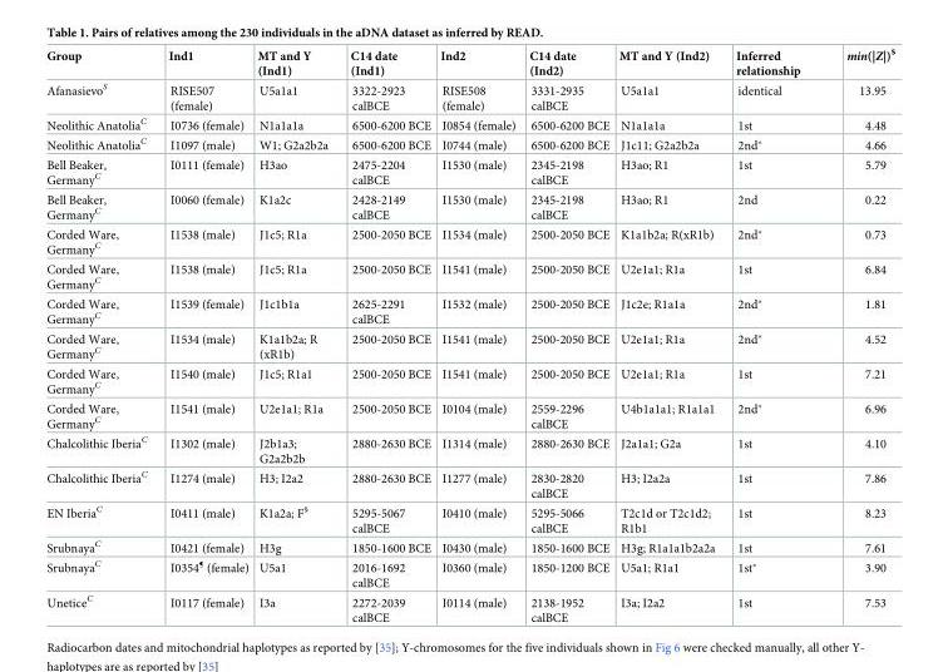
<table><thead><tr><td>Group</td><td>Ind1</td><td>MT and Y (Ind1)</td><td>C14 date (Ind1)</td><td>Ind2</td><td>C14 date (Ind2)</td><td>MT and Y (Ind2)</td><td>Inferred relationship</td><td>min(|Z|)<sup>$</sup></td></tr></thead><tbody><tr><td>Afanasievo<sup>S</sup></td><td>RISE507 (female)</td><td>U5a1a1</td><td>3322-2923 calBCE</td><td>RISE508 (female)</td><td>3331-2935 calBCE</td><td>U5a1a1</td><td>identical</td><td>13.95</td></tr><tr><td>Neolithic Anatolia<sup>C</sup></td><td>I0736 (female)</td><td>N1a1a1a</td><td>6500-6200 BCE</td><td>I0854 (female)</td><td>6500-6200 BCE</td><td>N1a1a1a</td><td>1st</td><td>4.48</td></tr><tr><td>Neolithic Anatolia<sup>C</sup></td><td>I1097 (male)</td><td>W1; G2a2b2a</td><td>6500-6200 BCE</td><td>I0744 (male)</td><td>6500-6200 BCE</td><td>J1c11; G2a2b2a</td><td>2nd*</td><td>4.66</td></tr><tr><td>Bell Beaker, Germany<sup>C</sup></td><td>I0111 (female)</td><td>H3ao</td><td>2475-2204 calBCE</td><td>I1530 (male)</td><td>2345-2198 calBCE</td><td>H3ao; R1</td><td>1st</td><td>5.79</td></tr><tr><td>Bell Beaker, Germany<sup>C</sup></td><td>I0060 (female)</td><td>K1a2c</td><td>2428-2149 calBCE</td><td>I1530 (male)</td><td>2345-2198 calBCE</td><td>H3ao; R1</td><td>2nd</td><td>0.22</td></tr><tr><td>Corded Ware, Germany<sup>C</sup></td><td>I1538 (male)</td><td>J1c5; R1a</td><td>2500-2050 BCE</td><td>I1534 (male)</td><td>2500-2050 BCE</td><td>K1a1b2a; R(xR1b)</td><td>2nd*</td><td>0.73</td></tr><tr><td>Corded Ware, Germany<sup>C</sup></td><td>I1538 (male)</td><td>J1c5; R1a</td><td>2500-2050 BCE</td><td>I1541 (male)</td><td>2500-2050 BCE</td><td>U2e1a1; R1a</td><td>1st</td><td>6.84</td></tr><tr><td>Corded Ware, Germany<sup>C</sup></td><td>I1539 (female)</td><td>J1c1b1a</td><td>2625-2291 calBCE</td><td>I1532 (male)</td><td>2500-2050 BCE</td><td>J1c2e; R1a1a</td><td>2nd*</td><td>1.81</td></tr><tr><td>Corded Ware, Germany<sup>C</sup></td><td>I1534 (male)</td><td>K1a1b2a; R (xR1b)</td><td>2500-2050 BCE</td><td>I1541 (male)</td><td>2500-2050 BCE</td><td>U2e1a1; R1a</td><td>2nd*</td><td>4.52</td></tr><tr><td>Corded Ware, Germany<sup>C</sup></td><td>I1540 (male)</td><td>J1c5; R1a1</td><td>2500-2050 BCE</td><td>I1541 (male)</td><td>2500-2050 BCE</td><td>U2e1a1; R1a</td><td>1st</td><td>7.21</td></tr><tr><td>Corded Ware, Germany<sup>C</sup></td><td>I1541 (male)</td><td>U2e1a1; R1a</td><td>2500-2050 BCE</td><td>I0104 (male)</td><td>2559-2296 calBCE</td><td>U4b1a1a1; R1a1a1</td><td>2nd*</td><td>6.96</td></tr><tr><td>Chalcolithic Iberia<sup>C</sup></td><td>I1302 (male)</td><td>J2b1a3; G2a2b2b</td><td>2880-2630 BCE</td><td>I1314 (male)</td><td>2880-2630 BCE</td><td>J2a1a1; G2a</td><td>1st</td><td>4.10</td></tr><tr><td>Chalcolithic Iberia<sup>C</sup></td><td>I1274 (male)</td><td>H3; I2a2</td><td>2880-2630 BCE</td><td>I1277 (male)</td><td>2830-2820 calBCE</td><td>H3; I2a2a</td><td>1st</td><td>7.86</td></tr><tr><td>EN Iberia<sup>C</sup></td><td>I0411 (male)</td><td>K1a2a; F<sup>§</sup></td><td>5295-5067 calBCE</td><td>I0410 (male)</td><td>5295-5066 calBCE</td><td>T2c1d or T2c1d2; R1b1</td><td>1st</td><td>8.23</td></tr><tr><td>Srubnaya<sup>C</sup></td><td>I0421 (female)</td><td>H3g</td><td>1850-1600 BCE</td><td>I0430 (male)</td><td>1850-1600 BCE</td><td>H3g; R1a1a1b2a2a</td><td>1st</td><td>7.61</td></tr><tr><td>Srubnaya<sup>C</sup></td><td>I0354<sup>¶</sup> (female)</td><td>U5a1</td><td>2016-1692 calBCE</td><td>I0360 (male)</td><td>1850-1200 BCE</td><td>U5a1; R1a1</td><td>1st*</td><td>3.90</td></tr><tr><td>Unetice<sup>C</sup></td><td>I0117 (female)</td><td>I3a</td><td>2272-2039 calBCE</td><td>I0114 (male)</td><td>2138-1952 calBCE</td><td>I3a; I2a2</td><td>1st</td><td>7.53</td></tr></tbody></table>